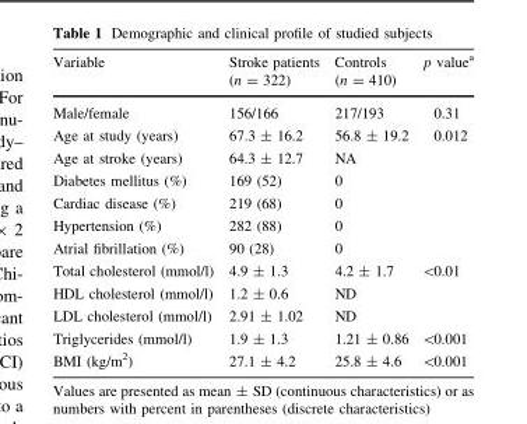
<table><thead><tr><td>Variable</td><td>Stroke patients (n = 322)</td><td>Controls (n = 410)</td><td>p value<sup>a</sup></td></tr></thead><tbody><tr><td>Male/female</td><td>156/166</td><td>217/193</td><td>0.31</td></tr><tr><td>Age at study (years)</td><td>67.3 ± 16.2</td><td>56.8 ± 19.2</td><td>0.012</td></tr><tr><td>Age at stroke (years)</td><td>64.3 ± 12.7</td><td>NA</td><td></td></tr><tr><td>Diabetes mellitus (%)</td><td>169 (52)</td><td>0</td><td></td></tr><tr><td>Cardiac disease (%)</td><td>219 (68)</td><td>0</td><td></td></tr><tr><td>Hypertension (%)</td><td>282 (88)</td><td>0</td><td></td></tr><tr><td>Atrial fibrillation (%)</td><td>90 (28)</td><td>0</td><td></td></tr><tr><td>Total cholesterol (mmol/l)</td><td>4.9 ± 1.3</td><td>4.2 ± 1.7</td><td>&lt;0.01</td></tr><tr><td>HDL cholesterol (mmol/l)</td><td>1.2 ± 0.6</td><td>ND</td><td></td></tr><tr><td>LDL cholesterol (mmol/l)</td><td>2.91 ± 1.02</td><td>ND</td><td></td></tr><tr><td>Triglycerides (mmol/l)</td><td>1.9 ± 1.3</td><td>1.21 ± 0.86</td><td>&lt;0.001</td></tr><tr><td>BMI (kg/m<sup>2</sup>)</td><td>27.1 ± 4.2</td><td>25.8 ± 4.6</td><td>&lt;0.001</td></tr></tbody></table>